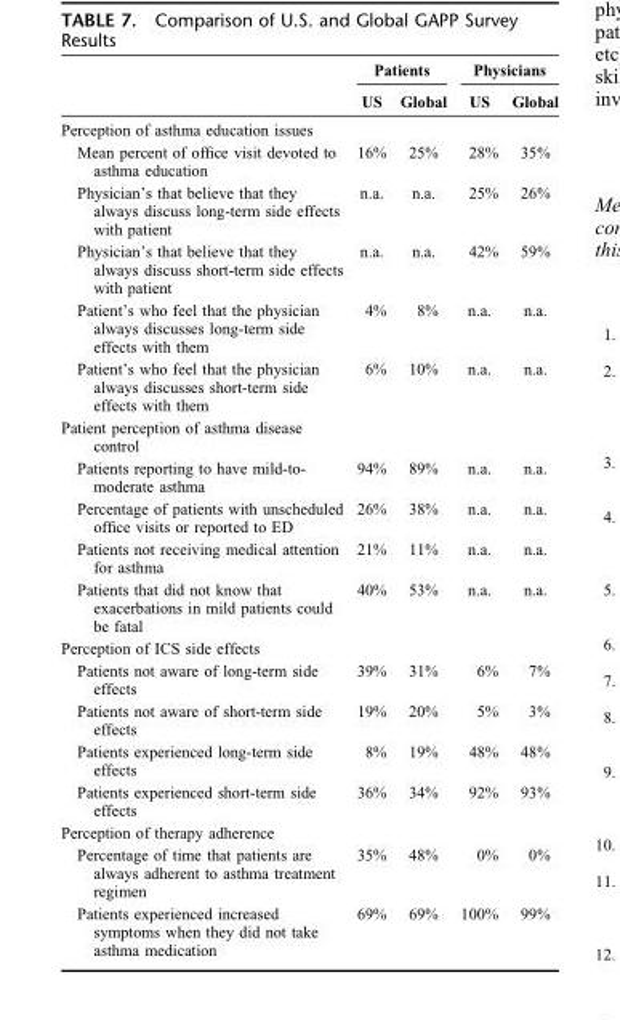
<table><thead><tr><td rowspan="2"></td><td colspan="2">Patients</td><td colspan="2">Physicians</td></tr><tr><td>US</td><td>Global</td><td>US</td><td>Global</td></tr></thead><tbody><tr><td colspan="5">Perception of asthma education issues</td></tr><tr><td>Mean percent of office visit devoted to asthma education</td><td>16%</td><td>25%</td><td>28%</td><td>35%</td></tr><tr><td>Physician’s that believe that they always discuss long-term side effects with patient</td><td>n.a.</td><td>n.a.</td><td>25%</td><td>26%</td></tr><tr><td>Physician’s that believe that they always discuss short-term side effects with patient</td><td>n.a.</td><td>n.a.</td><td>42%</td><td>59%</td></tr><tr><td>Patient’s who feel that the physician always discusses long-term side effects with them</td><td>4%</td><td>8%</td><td>n.a.</td><td>n.a.</td></tr><tr><td>Patient’s who feel that the physician always discusses short-term side effects with them</td><td>6%</td><td>10%</td><td>n.a.</td><td>n.a.</td></tr><tr><td colspan="5">Patient perception of asthma disease control</td></tr><tr><td>Patients reporting to have mild-to- moderate asthma</td><td>94%</td><td>89%</td><td>n.a.</td><td>n.a.</td></tr><tr><td>Percentage of patients with unscheduled office visits or reported to ED</td><td>26%</td><td>38%</td><td>n.a.</td><td>n.a.</td></tr><tr><td>Patients not receiving medical attention for asthma</td><td>21%</td><td>11%</td><td>n.a.</td><td>n.a.</td></tr><tr><td>Patients that did not know that exacerbations in mild patients could be fatal</td><td>40%</td><td>53%</td><td>n.a.</td><td>n.a.</td></tr><tr><td colspan="5">Perception of ICS side effects</td></tr><tr><td>Patients not aware of long-term side effects</td><td>39%</td><td>31%</td><td>6%</td><td>7%</td></tr><tr><td>Patients not aware of short-term side effects</td><td>19%</td><td>20%</td><td>5%</td><td>3%</td></tr><tr><td>Patients experienced long-term side effects</td><td>8%</td><td>19%</td><td>48%</td><td>48%</td></tr><tr><td>Patients experienced short-term side effects</td><td>36%</td><td>34%</td><td>92%</td><td>93%</td></tr><tr><td colspan="5">Perception of therapy adherence</td></tr><tr><td>Percentage of time that patients are always adherent to asthma treatment regimen</td><td>35%</td><td>48%</td><td>0%</td><td>0%</td></tr><tr><td>Patients experienced increased symptoms when they did not take asthma medication</td><td>69%</td><td>69%</td><td>100%</td><td>99%</td></tr></tbody></table>